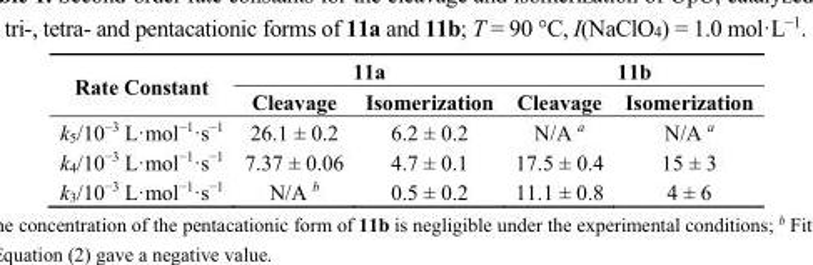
<table><thead><tr><td rowspan="2">Rate Constant</td><td colspan="2">11a</td><td colspan="2">11b</td></tr><tr><td>Cleavage</td><td>Isomerization</td><td>Cleavage</td><td>Isomerization</td></tr></thead><tbody><tr><td>k<sub>5</sub>/10<sup>−3</sup> L·mol<sup>−1</sup>·s<sup>−1</sup></td><td>26.1 ± 0.2</td><td>6.2 ± 0.2</td><td>N/A <sup>a</sup></td><td>N/A <sup>a</sup></td></tr><tr><td>k<sub>4</sub>/10<sup>−3</sup> L·mol<sup>−1</sup>·s<sup>−1</sup></td><td>7.37 ± 0.06</td><td>4.7 ± 0.1</td><td>17.5 ± 0.4</td><td>15 ± 3</td></tr><tr><td>k<sub>3</sub>/10<sup>−3</sup> L·mol<sup>−1</sup>·s<sup>−1</sup></td><td>N/A <sup>b</sup></td><td>0.5 ± 0.2</td><td>11.1 ± 0.8</td><td>4 ± 6</td></tr></tbody></table>